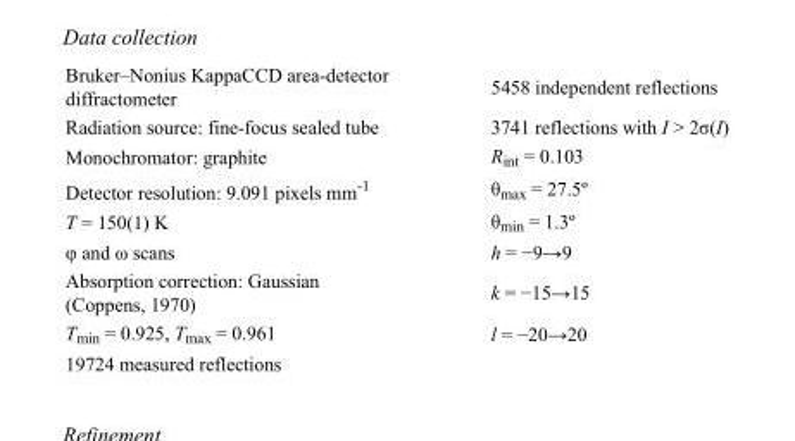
<table><tbody><tr><td>Bruker–Nonius KappaCCD area-detector diffractometer</td><td>5458 independent reflections</td></tr><tr><td>Radiation source: fine-focus sealed tube</td><td>3741 reflections with I &gt; 2σ(I)</td></tr><tr><td>Monochromator: graphite</td><td>R<sub>int</sub> = 0.103</td></tr><tr><td>Detector resolution: 9.091 pixels mm<sup>-1</sup></td><td>θ<sub>max</sub> = 27.5º</td></tr><tr><td>T = 150(1) K</td><td>θ<sub>min</sub> = 1.3º</td></tr><tr><td>φ and ω scans</td><td>h = −9→9</td></tr><tr><td>Absorption correction: Gaussian (Coppens, 1970)</td><td>k = −15→15</td></tr><tr><td>T<sub>min</sub> = 0.925, T<sub>max</sub> = 0.961</td><td>l = −20→20</td></tr><tr><td>19724 measured reflections</td><td></td></tr></tbody></table>